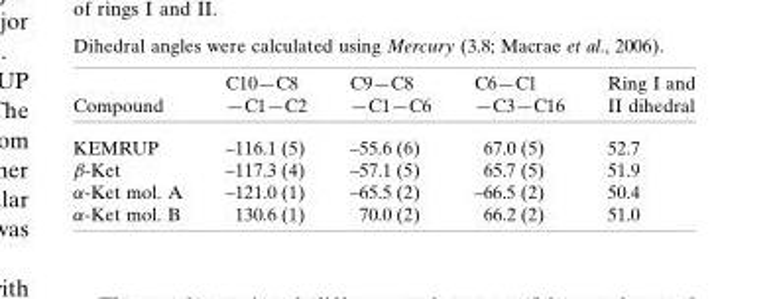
<table><thead><tr><td>Compound</td><td>C10—C8 —C1—C2</td><td>C9—C8 —C1—C6</td><td>C6—C1 —C3—C16</td><td>Ring I and II dihedral</td></tr></thead><tbody><tr><td>KEMRUP</td><td>–116.1 (5)</td><td>–55.6 (6)</td><td>67.0 (5)</td><td>52.7</td></tr><tr><td>β-Ket</td><td>–117.3 (4)</td><td>–57.1 (5)</td><td>65.7 (5)</td><td>51.9</td></tr><tr><td>α-Ket mol. A</td><td>–121.0 (1)</td><td>–65.5 (2)</td><td>–66.5 (2)</td><td>50.4</td></tr><tr><td>α-Ket mol. B</td><td>130.6 (1)</td><td>70.0 (2)</td><td>66.2 (2)</td><td>51.0</td></tr></tbody></table>